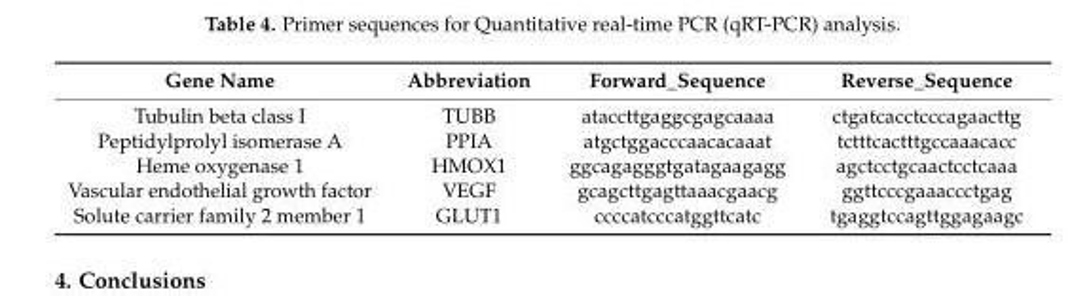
<table><thead><tr><td>Gene Name</td><td>Abbreviation</td><td>Forward_Sequence</td><td>Reverse_Sequence</td></tr></thead><tbody><tr><td>Tubulin beta class I</td><td>TUBB</td><td>ataccttgaggcgagcaaaa</td><td>ctgatcacctcccagaacttg</td></tr><tr><td>Peptidylprolyl isomerase A</td><td>PPIA</td><td>atgctggacccaacacaaat</td><td>tctttcactttgccaaacacc</td></tr><tr><td>Heme oxygenase 1</td><td>HMOX1</td><td>ggcagagggtgatagaagagg</td><td>agctcctgcaactcctcaaa</td></tr><tr><td>Vascular endothelial growth factor</td><td>VEGF</td><td>gcagcttgagttaaacgaacg</td><td>ggttcccgaaaccctgag</td></tr><tr><td>Solute carrier family 2 member 1</td><td>GLUT1</td><td>ccccatcccatggttcatc</td><td>tgaggtccagttggagaagc</td></tr></tbody></table>